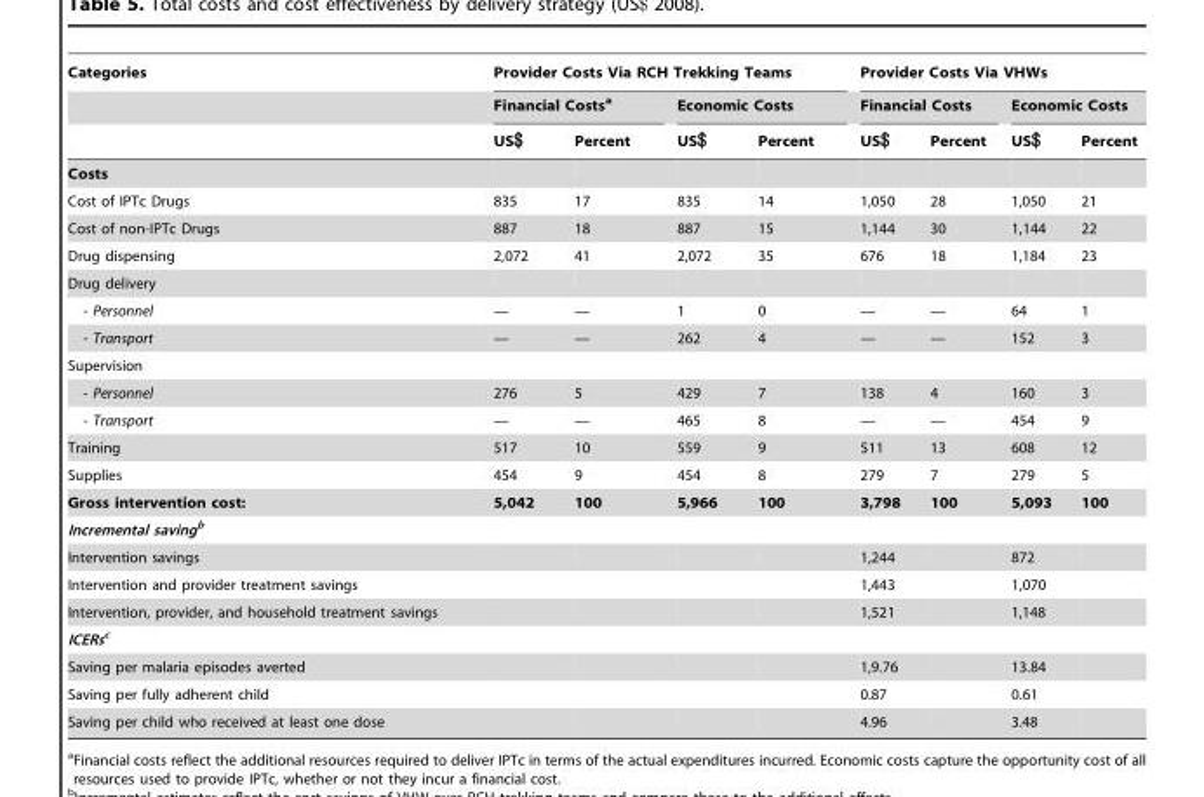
<table><thead><tr><td rowspan="3">Categories</td><td colspan="4">Provider Costs Via RCH Trekking Teams</td><td colspan="4">Provider Costs Via VHWs</td></tr><tr><td colspan="2">Financial Costs<sup>a</sup></td><td colspan="2">Economic Costs</td><td colspan="2">Financial Costs</td><td colspan="2">Economic Costs</td></tr><tr><td>US$</td><td>Percent</td><td>US$</td><td>Percent</td><td>US$</td><td>Percent</td><td>US$</td><td>Percent</td></tr></thead><tbody><tr><td colspan="9">Costs</td></tr><tr><td>Cost of IPTc Drugs</td><td>835</td><td>17</td><td>835</td><td>14</td><td>1,050</td><td>28</td><td>1,050</td><td>21</td></tr><tr><td>Cost of non-IPTc Drugs</td><td>887</td><td>18</td><td>887</td><td>15</td><td>1,144</td><td>30</td><td>1,144</td><td>22</td></tr><tr><td>Drug dispensing</td><td>2,072</td><td>41</td><td>2,072</td><td>35</td><td>676</td><td>18</td><td>1,184</td><td>23</td></tr><tr><td colspan="9">Drug delivery</td></tr><tr><td>- Personnel</td><td>—</td><td>—</td><td>1</td><td>0</td><td>—</td><td>—</td><td>64</td><td>1</td></tr><tr><td>- Transport</td><td>—</td><td>—</td><td>262</td><td>4</td><td>—</td><td>—</td><td>152</td><td>3</td></tr><tr><td colspan="9">Supervision</td></tr><tr><td>- Personnel</td><td>276</td><td>5</td><td>429</td><td>7</td><td>138</td><td>4</td><td>160</td><td>3</td></tr><tr><td>- Transport</td><td>—</td><td>—</td><td>465</td><td>8</td><td>—</td><td>—</td><td>454</td><td>9</td></tr><tr><td>Training</td><td>517</td><td>10</td><td>559</td><td>9</td><td>511</td><td>13</td><td>608</td><td>12</td></tr><tr><td>Supplies</td><td>454</td><td>9</td><td>454</td><td>8</td><td>279</td><td>7</td><td>279</td><td>5</td></tr><tr><td>Gross intervention cost:</td><td>5,042</td><td>100</td><td>5,966</td><td>100</td><td>3,798</td><td>100</td><td>5,093</td><td>100</td></tr><tr><td colspan="9">Incremental savingb</td></tr><tr><td>Intervention savings</td><td></td><td></td><td></td><td></td><td>1,244</td><td></td><td>872</td><td></td></tr><tr><td>Intervention and provider treatment savings</td><td></td><td></td><td></td><td></td><td>1,443</td><td></td><td>1,070</td><td></td></tr><tr><td>Intervention, provider, and household treatment savings</td><td></td><td></td><td></td><td></td><td>1,521</td><td></td><td>1,148</td><td></td></tr><tr><td colspan="9">ICERsc</td></tr><tr><td>Saving per malaria episodes averted</td><td></td><td></td><td></td><td></td><td>1,9.76</td><td></td><td>13.84</td><td></td></tr><tr><td>Saving per fully adherent child</td><td></td><td></td><td></td><td></td><td>0.87</td><td></td><td>0.61</td><td></td></tr><tr><td>Saving per child who received at least one dose</td><td></td><td></td><td></td><td></td><td>4.96</td><td></td><td>3.48</td><td></td></tr></tbody></table>